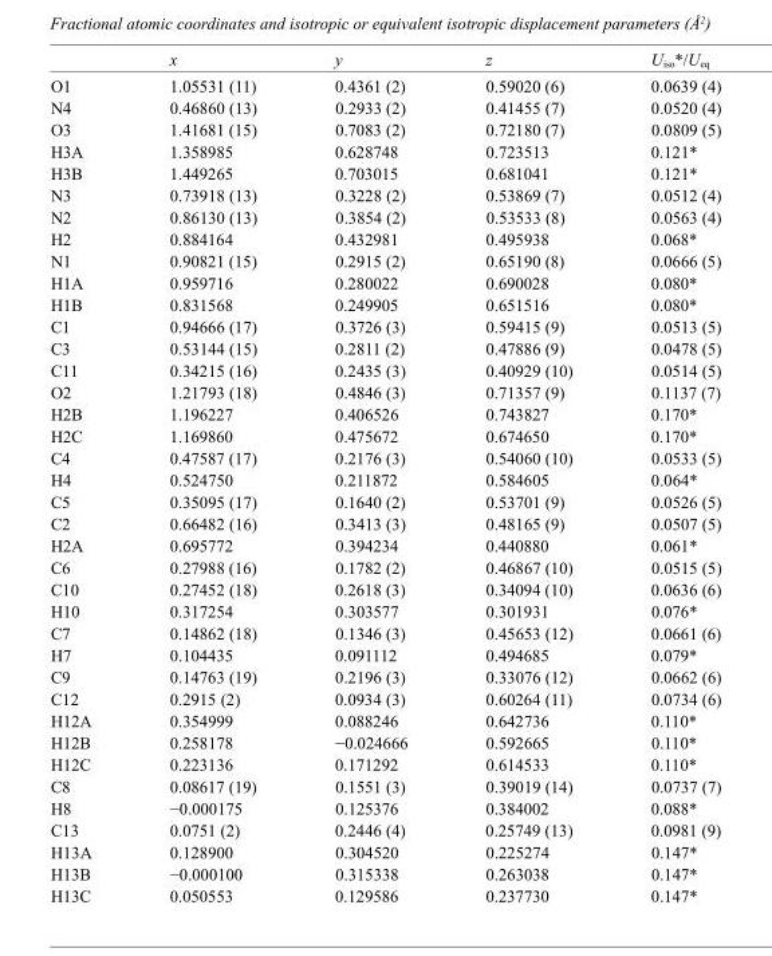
<table><thead><tr><td></td><td>x</td><td>y</td><td>z</td><td>U<sub>iso</sub>*/U<sub>eq</sub></td></tr></thead><tbody><tr><td>O1</td><td>1.05531 (11)</td><td>0.4361 (2)</td><td>0.59020 (6)</td><td>0.0639 (4)</td></tr><tr><td>N4</td><td>0.46860 (13)</td><td>0.2933 (2)</td><td>0.41455 (7)</td><td>0.0520 (4)</td></tr><tr><td>O3</td><td>1.41681 (15)</td><td>0.7083 (2)</td><td>0.72180 (7)</td><td>0.0809 (5)</td></tr><tr><td>H3A</td><td>1.358985</td><td>0.628748</td><td>0.723513</td><td>0.121*</td></tr><tr><td>H3B</td><td>1.449265</td><td>0.703015</td><td>0.681041</td><td>0.121*</td></tr><tr><td>N3</td><td>0.73918 (13)</td><td>0.3228 (2)</td><td>0.53869 (7)</td><td>0.0512 (4)</td></tr><tr><td>N2</td><td>0.86130 (13)</td><td>0.3854 (2)</td><td>0.53533 (8)</td><td>0.0563 (4)</td></tr><tr><td>H2</td><td>0.884164</td><td>0.432981</td><td>0.495938</td><td>0.068*</td></tr><tr><td>N1</td><td>0.90821 (15)</td><td>0.2915 (2)</td><td>0.65190 (8)</td><td>0.0666 (5)</td></tr><tr><td>H1A</td><td>0.959716</td><td>0.280022</td><td>0.690028</td><td>0.080*</td></tr><tr><td>H1B</td><td>0.831568</td><td>0.249905</td><td>0.651516</td><td>0.080*</td></tr><tr><td>C1</td><td>0.94666 (17)</td><td>0.3726 (3)</td><td>0.59415 (9)</td><td>0.0513 (5)</td></tr><tr><td>C3</td><td>0.53144 (15)</td><td>0.2811 (2)</td><td>0.47886 (9)</td><td>0.0478 (5)</td></tr><tr><td>C11</td><td>0.34215 (16)</td><td>0.2435 (3)</td><td>0.40929 (10)</td><td>0.0514 (5)</td></tr><tr><td>O2</td><td>1.21793 (18)</td><td>0.4846 (3)</td><td>0.71357 (9)</td><td>0.1137 (7)</td></tr><tr><td>H2B</td><td>1.196227</td><td>0.406526</td><td>0.743827</td><td>0.170*</td></tr><tr><td>H2C</td><td>1.169860</td><td>0.475672</td><td>0.674650</td><td>0.170*</td></tr><tr><td>C4</td><td>0.47587 (17)</td><td>0.2176 (3)</td><td>0.54060 (10)</td><td>0.0533 (5)</td></tr><tr><td>H4</td><td>0.524750</td><td>0.211872</td><td>0.584605</td><td>0.064*</td></tr><tr><td>C5</td><td>0.35095 (17)</td><td>0.1640 (2)</td><td>0.53701 (9)</td><td>0.0526 (5)</td></tr><tr><td>C2</td><td>0.66482 (16)</td><td>0.3413 (3)</td><td>0.48165 (9)</td><td>0.0507 (5)</td></tr><tr><td>H2A</td><td>0.695772</td><td>0.394234</td><td>0.440880</td><td>0.061*</td></tr><tr><td>C6</td><td>0.27988 (16)</td><td>0.1782 (2)</td><td>0.46867 (10)</td><td>0.0515 (5)</td></tr><tr><td>C10</td><td>0.27452 (18)</td><td>0.2618 (3)</td><td>0.34094 (10)</td><td>0.0636 (6)</td></tr><tr><td>H10</td><td>0.317254</td><td>0.303577</td><td>0.301931</td><td>0.076*</td></tr><tr><td>C7</td><td>0.14862 (18)</td><td>0.1346 (3)</td><td>0.45653 (12)</td><td>0.0661 (6)</td></tr><tr><td>H7</td><td>0.104435</td><td>0.091112</td><td>0.494685</td><td>0.079*</td></tr><tr><td>C9</td><td>0.14763 (19)</td><td>0.2196 (3)</td><td>0.33076 (12)</td><td>0.0662 (6)</td></tr><tr><td>C12</td><td>0.2915 (2)</td><td>0.0934 (3)</td><td>0.60264 (11)</td><td>0.0734 (6)</td></tr><tr><td>H12A</td><td>0.354999</td><td>0.088246</td><td>0.642736</td><td>0.110*</td></tr><tr><td>H12B</td><td>0.258178</td><td>−0.024666</td><td>0.592665</td><td>0.110*</td></tr><tr><td>H12C</td><td>0.223136</td><td>0.171292</td><td>0.614533</td><td>0.110*</td></tr><tr><td>C8</td><td>0.08617 (19)</td><td>0.1551 (3)</td><td>0.39019 (14)</td><td>0.0737 (7)</td></tr><tr><td>H8</td><td>−0.000175</td><td>0.125376</td><td>0.384002</td><td>0.088*</td></tr><tr><td>C13</td><td>0.0751 (2)</td><td>0.2446 (4)</td><td>0.25749 (13)</td><td>0.0981 (9)</td></tr><tr><td>H13A</td><td>0.128900</td><td>0.304520</td><td>0.225274</td><td>0.147*</td></tr><tr><td>H13B</td><td>−0.000100</td><td>0.315338</td><td>0.263038</td><td>0.147*</td></tr><tr><td>H13C</td><td>0.050553</td><td>0.129586</td><td>0.237730</td><td>0.147*</td></tr></tbody></table>